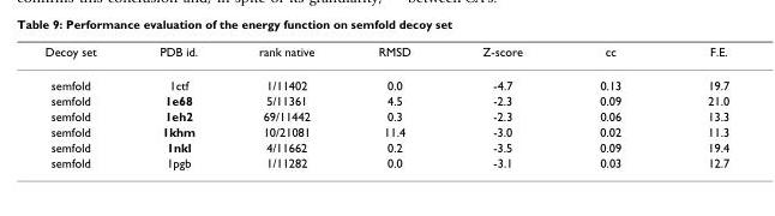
<table><thead><tr><td>Decoy set</td><td>PDB id.</td><td>rank native</td><td>RMSD</td><td>Z-score</td><td>cc</td><td>F.E.</td></tr></thead><tbody><tr><td>semfold</td><td>1ctf</td><td>1/11402</td><td>0.0</td><td>-4.7</td><td>0.13</td><td>19.7</td></tr><tr><td>semfold</td><td>1e68</td><td>5/11361</td><td>4.5</td><td>-2.3</td><td>0.09</td><td>21.0</td></tr><tr><td>semfold</td><td>1eh2</td><td>69/11442</td><td>0.3</td><td>-2.3</td><td>0.06</td><td>13.3</td></tr><tr><td>semfold</td><td>1khm</td><td>10/21081</td><td>11.4</td><td>-3.0</td><td>0.02</td><td>11.3</td></tr><tr><td>semfold</td><td>1nkl</td><td>4/11662</td><td>0.2</td><td>-3.5</td><td>0.09</td><td>19.4</td></tr><tr><td>semfold</td><td>1pgb</td><td>1/11282</td><td>0.0</td><td>-3.1</td><td>0.03</td><td>12.7</td></tr></tbody></table>